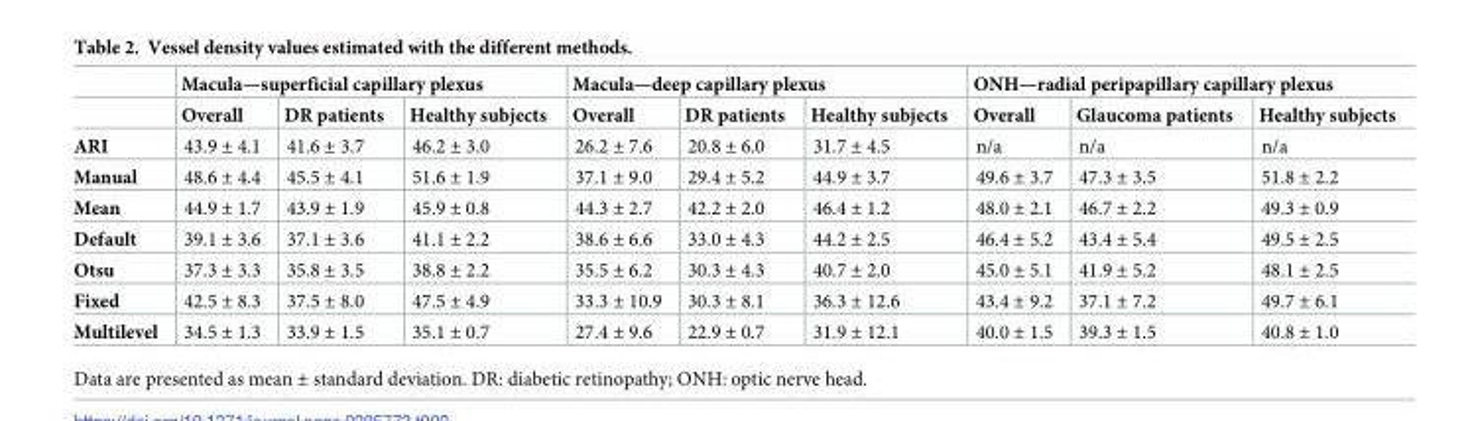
<table><thead><tr><td rowspan="2"></td><td colspan="3">Macula—superficial capillary plexus</td><td colspan="3">Macula—deep capillary plexus</td><td colspan="3">ONH—radial peripapillary capillary plexus</td></tr><tr><td>Overall</td><td>DR patients</td><td>Healthy subjects</td><td>Overall</td><td>DR patients</td><td>Healthy subjects</td><td>Overall</td><td>Glaucoma patients</td><td>Healthy subjects</td></tr></thead><tbody><tr><td>ARI</td><td>43.9 ± 4.1</td><td>41.6 ± 3.7</td><td>46.2 ± 3.0</td><td>26.2 ± 7.6</td><td>20.8 ± 6.0</td><td>31.7 ± 4.5</td><td>n/a</td><td>n/a</td><td>n/a</td></tr><tr><td>Manual</td><td>48.6 ± 4.4</td><td>45.5 ± 4.1</td><td>51.6 ± 1.9</td><td>37.1 ± 9.0</td><td>29.4 ± 5.2</td><td>44.9 ± 3.7</td><td>49.6 ± 3.7</td><td>47.3 ± 3.5</td><td>51.8 ± 2.2</td></tr><tr><td>Mean</td><td>44.9 ± 1.7</td><td>43.9 ± 1.9</td><td>45.9 ± 0.8</td><td>44.3 ± 2.7</td><td>42.2 ± 2.0</td><td>46.4 ± 1.2</td><td>48.0 ± 2.1</td><td>46.7 ± 2.2</td><td>49.3 ± 0.9</td></tr><tr><td>Default</td><td>39.1 ± 3.6</td><td>37.1 ± 3.6</td><td>41.1 ± 2.2</td><td>38.6 ± 6.6</td><td>33.0 ± 4.3</td><td>44.2 ± 2.5</td><td>46.4 ± 5.2</td><td>43.4 ± 5.4</td><td>49.5 ± 2.5</td></tr><tr><td>Otsu</td><td>37.3 ± 3.3</td><td>35.8 ± 3.5</td><td>38.8 ± 2.2</td><td>35.5 ± 6.2</td><td>30.3 ± 4.3</td><td>40.7 ± 2.0</td><td>45.0 ± 5.1</td><td>41.9 ± 5.2</td><td>48.1 ± 2.5</td></tr><tr><td>Fixed</td><td>42.5 ± 8.3</td><td>37.5 ± 8.0</td><td>47.5 ± 4.9</td><td>33.3 ± 10.9</td><td>30.3 ± 8.1</td><td>36.3 ± 12.6</td><td>43.4 ± 9.2</td><td>37.1 ± 7.2</td><td>49.7 ± 6.1</td></tr><tr><td>Multilevel</td><td>34.5 ± 1.3</td><td>33.9 ± 1.5</td><td>35.1 ± 0.7</td><td>27.4 ± 9.6</td><td>22.9 ± 0.7</td><td>31.9 ± 12.1</td><td>40.0 ± 1.5</td><td>39.3 ± 1.5</td><td>40.8 ± 1.0</td></tr></tbody></table>